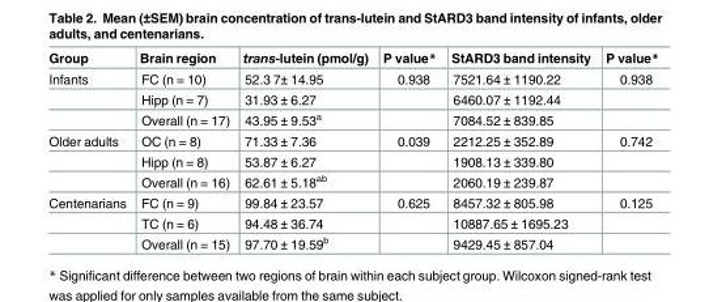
<table><thead><tr><td>Group</td><td>Brain region</td><td>trans-lutein (pmol/g)</td><td>P value*</td><td>StARD3 band intensity</td><td>P value*</td></tr></thead><tbody><tr><td rowspan="3">Infants</td><td>FC (n = 10)</td><td>52.3 7± 14.95</td><td>0.938</td><td>7521.64 ± 1190.22</td><td>0.938</td></tr><tr><td>Hipp (n = 7)</td><td>31.93 ± 6.27</td><td></td><td>6460.07 ± 1192.44</td><td></td></tr><tr><td>Overall (n = 17)</td><td>43.95 ± 9.53<sup>a</sup></td><td></td><td>7084.52 ± 839.85</td><td></td></tr><tr><td rowspan="3">Older adults</td><td>OC (n = 8)</td><td>71.33 ± 7.36</td><td>0.039</td><td>2212.25 ± 352.89</td><td>0.742</td></tr><tr><td>Hipp (n = 8)</td><td>53.87 ± 6.27</td><td></td><td>1908.13 ± 339.80</td><td></td></tr><tr><td>Overall (n = 16)</td><td>62.61 ± 5.18<sup>ab</sup></td><td></td><td>2060.19 ± 239.87</td><td></td></tr><tr><td rowspan="3">Centenarians</td><td>FC (n = 9)</td><td>99.84 ± 23.57</td><td>0.625</td><td>8457.32 ± 805.98</td><td>0.125</td></tr><tr><td>TC (n = 6)</td><td>94.48 ± 36.74</td><td></td><td>10887.65 ± 1695.23</td><td></td></tr><tr><td>Overall (n = 15)</td><td>97.70 ± 19.59<sup>b</sup></td><td></td><td>9429.45 ± 857.04</td><td></td></tr></tbody></table>